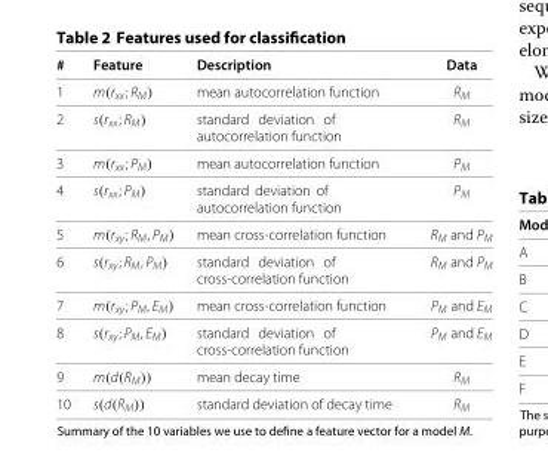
<table><thead><tr><td>#</td><td>Feature</td><td>Description</td><td>Data</td></tr></thead><tbody><tr><td>1</td><td>m(r<sub>xx</sub>; R<sub>M</sub>)</td><td>mean autocorrelation function</td><td>R<sub>M</sub></td></tr><tr><td>2</td><td>s(r<sub>xx</sub>; R<sub>M</sub>)</td><td>standard deviation of autocorrelation function</td><td>R<sub>M</sub></td></tr><tr><td>3</td><td>m(r<sub>xx</sub>; P<sub>M</sub>)</td><td>mean autocorrelation function</td><td>P<sub>M</sub></td></tr><tr><td>4</td><td>s(r<sub>xx</sub>; P<sub>M</sub>)</td><td>standard deviation of autocorrelation function</td><td>P<sub>M</sub></td></tr><tr><td>5</td><td>m(r<sub>xy</sub>; R<sub>M</sub>, P<sub>M</sub>)</td><td>mean cross-correlation function</td><td>R<sub>M</sub> and P<sub>M</sub></td></tr><tr><td>6</td><td>s(r<sub>xy</sub>; R<sub>M</sub>, P<sub>M</sub>)</td><td>standard deviation of cross-correlation function</td><td>R<sub>M</sub> and P<sub>M</sub></td></tr><tr><td>7</td><td>m(r<sub>xy</sub>; P<sub>M</sub>, E<sub>M</sub>)</td><td>mean cross-correlation function</td><td>P<sub>M</sub> and E<sub>M</sub></td></tr><tr><td>8</td><td>s(r<sub>xy</sub>; P<sub>M</sub>, E<sub>M</sub>)</td><td>standard deviation of cross-correlation function</td><td>P<sub>M</sub> and E<sub>M</sub></td></tr><tr><td>9</td><td>m(d(R<sub>M</sub>))</td><td>mean decay time</td><td>R<sub>M</sub></td></tr><tr><td>10</td><td>s(d(R<sub>M</sub>))</td><td>standard deviation of decay time</td><td>R<sub>M</sub></td></tr></tbody></table>